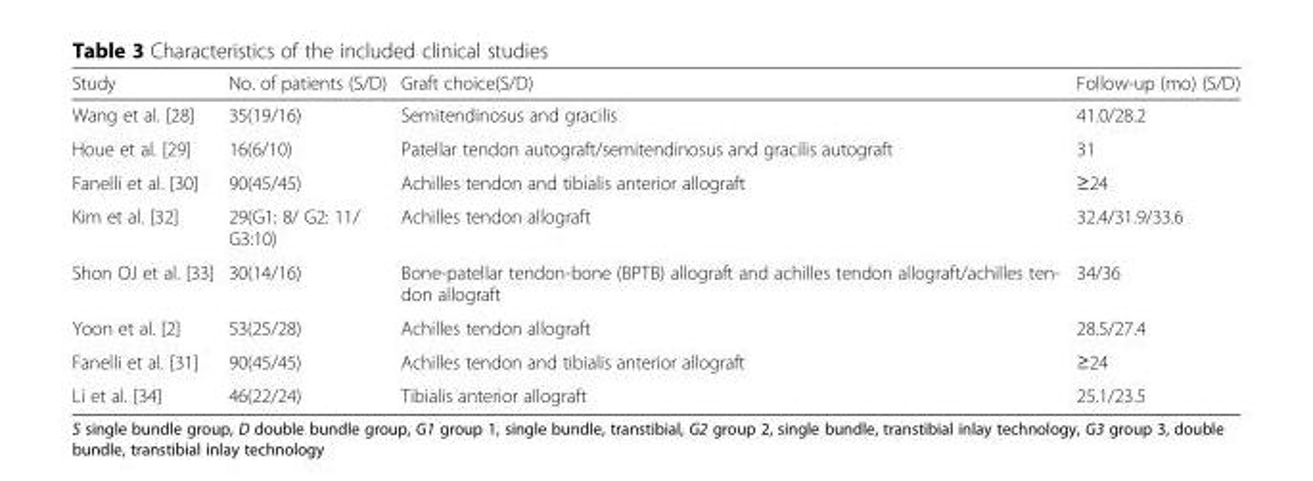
<table><thead><tr><td>Study</td><td>No. of patients (S/D)</td><td>Graft choice(S/D)</td><td>Follow-up (mo) (S/D)</td></tr></thead><tbody><tr><td>Wang et al. [28]</td><td>35(19/16)</td><td>Semitendinosus and gracilis</td><td>41.0/28.2</td></tr><tr><td>Houe et al. [29]</td><td>16(6/10)</td><td>Patellar tendon autograft/semitendinosus and gracilis autograft</td><td>31</td></tr><tr><td>Fanelli et al. [30]</td><td>90(45/45)</td><td>Achilles tendon and tibialis anterior allograft</td><td>≥24</td></tr><tr><td>Kim et al. [32]</td><td>29(G1: 8/ G2: 11/ G3:10)</td><td>Achilles tendon allograft</td><td>32.4/31.9/33.6</td></tr><tr><td>Shon OJ et al. [33]</td><td>30(14/16)</td><td>Bone-patellar tendon-bone (BPTB) allograft and achilles tendon allograft/achilles ten- don allograft</td><td>34/36</td></tr><tr><td>Yoon et al. [2]</td><td>53(25/28)</td><td>Achilles tendon allograft</td><td>28.5/27.4</td></tr><tr><td>Fanelli et al. [31]</td><td>90(45/45)</td><td>Achilles tendon and tibialis anterior allograft</td><td>≥24</td></tr><tr><td>Li et al. [34]</td><td>46(22/24)</td><td>Tibialis anterior allograft</td><td>25.1/23.5</td></tr></tbody></table>